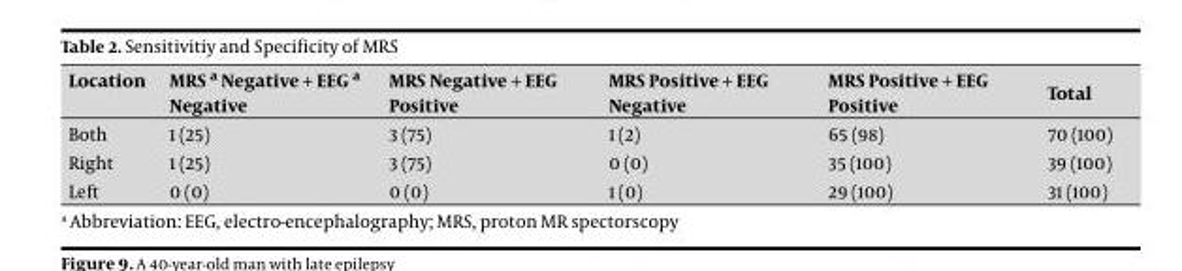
<table><thead><tr><td>Location</td><td>MRS a Negative + EEG a Negative</td><td>MRS Negative + EEG Positive</td><td>MRS Positive + EEG Negative</td><td>MRS Positive + EEG Positive</td><td>Total</td></tr></thead><tbody><tr><td>Both</td><td>1 (25)</td><td>3 (75)</td><td>1 (2)</td><td>65 (98)</td><td>70 (100)</td></tr><tr><td>Right</td><td>1 (25)</td><td>3 (75)</td><td>0 (0)</td><td>35 (100)</td><td>39 (100)</td></tr><tr><td>Left</td><td>0 (0)</td><td>0 (0)</td><td>1 (0)</td><td>29 (100)</td><td>31 (100)</td></tr></tbody></table>